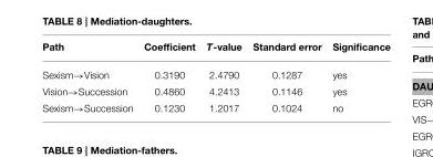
<table><thead><tr><td>Path</td><td>Coefficient</td><td>T-value</td><td>Standard error</td><td>Significance</td></tr></thead><tbody><tr><td>Sexism→Vision</td><td>0.3190</td><td>2.4790</td><td>0.1287</td><td>yes</td></tr><tr><td>Vision→Succession</td><td>0.4860</td><td>4.2413</td><td>0.1146</td><td>yes</td></tr><tr><td>Sexism→Succession</td><td>0.1230</td><td>1.2017</td><td>0.1024</td><td>no</td></tr></tbody></table>